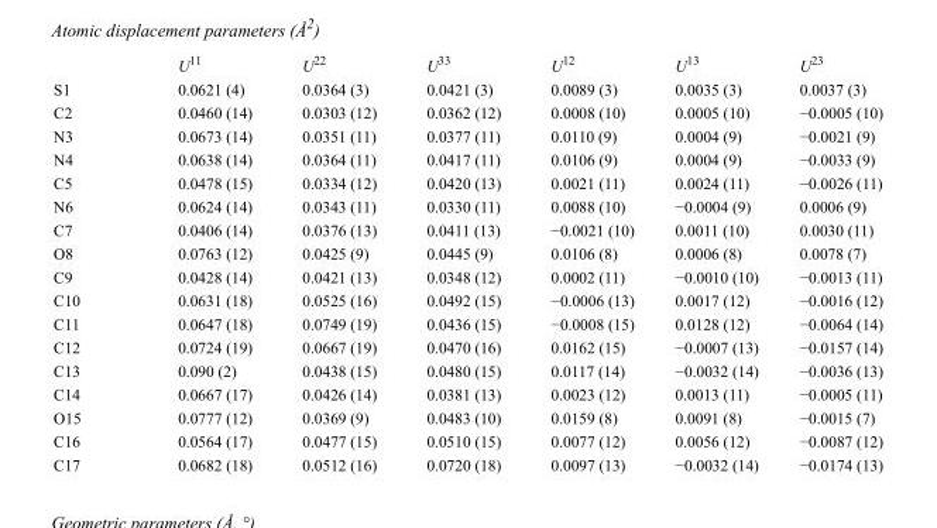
<table><thead><tr><td></td><td>U<sup>11</sup></td><td>U<sup>22</sup></td><td>U<sup>33</sup></td><td>U<sup>12</sup></td><td>U<sup>13</sup></td><td>U<sup>23</sup></td></tr></thead><tbody><tr><td>S1</td><td>0.0621 (4)</td><td>0.0364 (3)</td><td>0.0421 (3)</td><td>0.0089 (3)</td><td>0.0035 (3)</td><td>0.0037 (3)</td></tr><tr><td>C2</td><td>0.0460 (14)</td><td>0.0303 (12)</td><td>0.0362 (12)</td><td>0.0008 (10)</td><td>0.0005 (10)</td><td>−0.0005 (10)</td></tr><tr><td>N3</td><td>0.0673 (14)</td><td>0.0351 (11)</td><td>0.0377 (11)</td><td>0.0110 (9)</td><td>0.0004 (9)</td><td>−0.0021 (9)</td></tr><tr><td>N4</td><td>0.0638 (14)</td><td>0.0364 (11)</td><td>0.0417 (11)</td><td>0.0106 (9)</td><td>0.0004 (9)</td><td>−0.0033 (9)</td></tr><tr><td>C5</td><td>0.0478 (15)</td><td>0.0334 (12)</td><td>0.0420 (13)</td><td>0.0021 (11)</td><td>0.0024 (11)</td><td>−0.0026 (11)</td></tr><tr><td>N6</td><td>0.0624 (14)</td><td>0.0343 (11)</td><td>0.0330 (11)</td><td>0.0088 (10)</td><td>−0.0004 (9)</td><td>0.0006 (9)</td></tr><tr><td>C7</td><td>0.0406 (14)</td><td>0.0376 (13)</td><td>0.0411 (13)</td><td>−0.0021 (10)</td><td>0.0011 (10)</td><td>0.0030 (11)</td></tr><tr><td>O8</td><td>0.0763 (12)</td><td>0.0425 (9)</td><td>0.0445 (9)</td><td>0.0106 (8)</td><td>0.0006 (8)</td><td>0.0078 (7)</td></tr><tr><td>C9</td><td>0.0428 (14)</td><td>0.0421 (13)</td><td>0.0348 (12)</td><td>0.0002 (11)</td><td>−0.0010 (10)</td><td>−0.0013 (11)</td></tr><tr><td>C10</td><td>0.0631 (18)</td><td>0.0525 (16)</td><td>0.0492 (15)</td><td>−0.0006 (13)</td><td>0.0017 (12)</td><td>−0.0016 (12)</td></tr><tr><td>C11</td><td>0.0647 (18)</td><td>0.0749 (19)</td><td>0.0436 (15)</td><td>−0.0008 (15)</td><td>0.0128 (12)</td><td>−0.0064 (14)</td></tr><tr><td>C12</td><td>0.0724 (19)</td><td>0.0667 (19)</td><td>0.0470 (16)</td><td>0.0162 (15)</td><td>−0.0007 (13)</td><td>−0.0157 (14)</td></tr><tr><td>C13</td><td>0.090 (2)</td><td>0.0438 (15)</td><td>0.0480 (15)</td><td>0.0117 (14)</td><td>−0.0032 (14)</td><td>−0.0036 (13)</td></tr><tr><td>C14</td><td>0.0667 (17)</td><td>0.0426 (14)</td><td>0.0381 (13)</td><td>0.0023 (12)</td><td>0.0013 (11)</td><td>−0.0005 (11)</td></tr><tr><td>O15</td><td>0.0777 (12)</td><td>0.0369 (9)</td><td>0.0483 (10)</td><td>0.0159 (8)</td><td>0.0091 (8)</td><td>−0.0015 (7)</td></tr><tr><td>C16</td><td>0.0564 (17)</td><td>0.0477 (15)</td><td>0.0510 (15)</td><td>0.0077 (12)</td><td>0.0056 (12)</td><td>−0.0087 (12)</td></tr><tr><td>C17</td><td>0.0682 (18)</td><td>0.0512 (16)</td><td>0.0720 (18)</td><td>0.0097 (13)</td><td>−0.0032 (14)</td><td>−0.0174 (13)</td></tr></tbody></table>